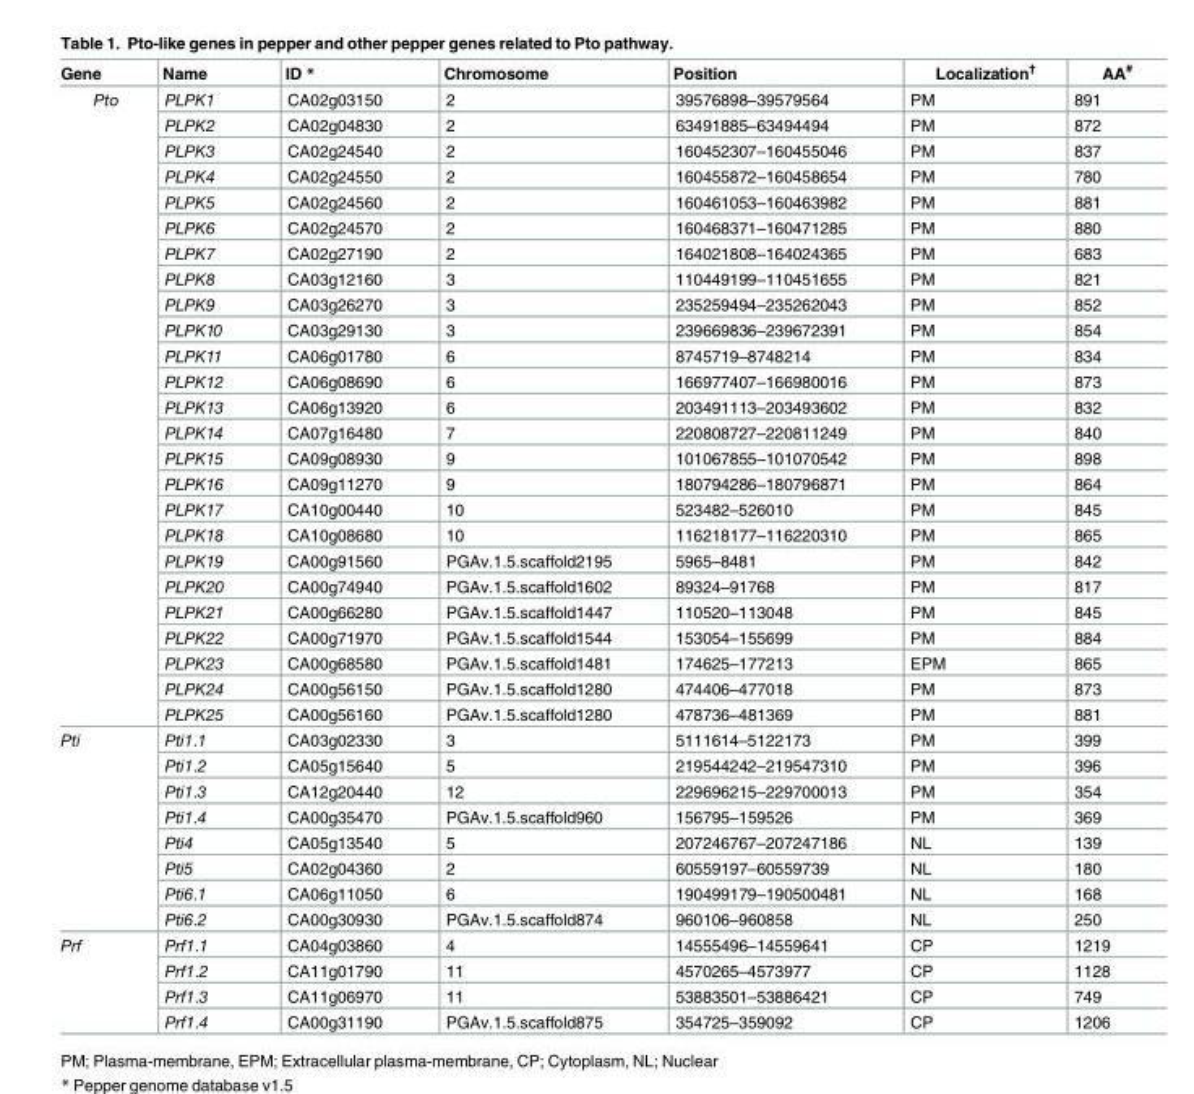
<table><thead><tr><td>Gene</td><td>Name</td><td>ID *</td><td>Chromosome</td><td>Position</td><td>Localization<sup>†</sup></td><td>AA<sup>#</sup></td></tr></thead><tbody><tr><td rowspan="25">Pto</td><td>PLPK1</td><td>CA02g03150</td><td>2</td><td>39576898–39579564</td><td>PM</td><td>891</td></tr><tr><td>PLPK2</td><td>CA02g04830</td><td>2</td><td>63491885–63494494</td><td>PM</td><td>872</td></tr><tr><td>PLPK3</td><td>CA02g24540</td><td>2</td><td>160452307–160455046</td><td>PM</td><td>837</td></tr><tr><td>PLPK4</td><td>CA02g24550</td><td>2</td><td>160455872–160458654</td><td>PM</td><td>780</td></tr><tr><td>PLPK5</td><td>CA02g24560</td><td>2</td><td>160461053–160463982</td><td>PM</td><td>881</td></tr><tr><td>PLPK6</td><td>CA02g24570</td><td>2</td><td>160468371–160471285</td><td>PM</td><td>880</td></tr><tr><td>PLPK7</td><td>CA02g27190</td><td>2</td><td>164021808–164024365</td><td>PM</td><td>683</td></tr><tr><td>PLPK8</td><td>CA03g12160</td><td>3</td><td>110449199–110451655</td><td>PM</td><td>821</td></tr><tr><td>PLPK9</td><td>CA03g26270</td><td>3</td><td>235259494–235262043</td><td>PM</td><td>852</td></tr><tr><td>PLPK10</td><td>CA03g29130</td><td>3</td><td>239669836–239672391</td><td>PM</td><td>854</td></tr><tr><td>PLPK11</td><td>CA06g01780</td><td>6</td><td>8745719–8748214</td><td>PM</td><td>834</td></tr><tr><td>PLPK12</td><td>CA06g08690</td><td>6</td><td>166977407–166980016</td><td>PM</td><td>873</td></tr><tr><td>PLPK13</td><td>CA06g13920</td><td>6</td><td>203491113–203493602</td><td>PM</td><td>832</td></tr><tr><td>PLPK14</td><td>CA07g16480</td><td>7</td><td>220808727–220811249</td><td>PM</td><td>840</td></tr><tr><td>PLPK15</td><td>CA09g08930</td><td>9</td><td>101067855–101070542</td><td>PM</td><td>898</td></tr><tr><td>PLPK16</td><td>CA09g11270</td><td>9</td><td>180794286–180796871</td><td>PM</td><td>864</td></tr><tr><td>PLPK17</td><td>CA10g00440</td><td>10</td><td>523482–526010</td><td>PM</td><td>845</td></tr><tr><td>PLPK18</td><td>CA10g08680</td><td>10</td><td>116218177–116220310</td><td>PM</td><td>865</td></tr><tr><td>PLPK19</td><td>CA00g91560</td><td>PGAv.1.5.scaffold2195</td><td>5965–8481</td><td>PM</td><td>842</td></tr><tr><td>PLPK20</td><td>CA00g74940</td><td>PGAv.1.5.scaffold1602</td><td>89324–91768</td><td>PM</td><td>817</td></tr><tr><td>PLPK21</td><td>CA00g66280</td><td>PGAv.1.5.scaffold1447</td><td>110520–113048</td><td>PM</td><td>845</td></tr><tr><td>PLPK22</td><td>CA00g71970</td><td>PGAv.1.5.scaffold1544</td><td>153054–155699</td><td>PM</td><td>884</td></tr><tr><td>PLPK23</td><td>CA00g68580</td><td>PGAv.1.5.scaffold1481</td><td>174625–177213</td><td>EPM</td><td>865</td></tr><tr><td>PLPK24</td><td>CA00g56150</td><td>PGAv.1.5.scaffold1280</td><td>474406–477018</td><td>PM</td><td>873</td></tr><tr><td>PLPK25</td><td>CA00g56160</td><td>PGAv.1.5.scaffold1280</td><td>478736–481369</td><td>PM</td><td>881</td></tr><tr><td rowspan="8">Pti</td><td>Pti1.1</td><td>CA03g02330</td><td>3</td><td>5111614–5122173</td><td>PM</td><td>399</td></tr><tr><td>Pti1.2</td><td>CA05g15640</td><td>5</td><td>219544242–219547310</td><td>PM</td><td>396</td></tr><tr><td>Pti1.3</td><td>CA12g20440</td><td>12</td><td>229696215–229700013</td><td>PM</td><td>354</td></tr><tr><td>Pti1.4</td><td>CA00g35470</td><td>PGAv.1.5.scaffold960</td><td>156795–159526</td><td>PM</td><td>369</td></tr><tr><td>Pti4</td><td>CA05g13540</td><td>5</td><td>207246767–207247186</td><td>NL</td><td>139</td></tr><tr><td>Pti5</td><td>CA02g04360</td><td>2</td><td>60559197–60559739</td><td>NL</td><td>180</td></tr><tr><td>Pti6.1</td><td>CA06g11050</td><td>6</td><td>190499179–190500481</td><td>NL</td><td>168</td></tr><tr><td>Pti6.2</td><td>CA00g30930</td><td>PGAv.1.5.scaffold874</td><td>960106–960858</td><td>NL</td><td>250</td></tr><tr><td rowspan="4">Prf</td><td>Prf1.1</td><td>CA04g03860</td><td>4</td><td>14555496–14559641</td><td>CP</td><td>1219</td></tr><tr><td>Prf1.2</td><td>CA11g01790</td><td>11</td><td>4570265–4573977</td><td>CP</td><td>1128</td></tr><tr><td>Prf1.3</td><td>CA11g06970</td><td>11</td><td>53883501–53886421</td><td>CP</td><td>749</td></tr><tr><td>Prf1.4</td><td>CA00g31190</td><td>PGAv.1.5.scaffold875</td><td>354725–359092</td><td>CP</td><td>1206</td></tr></tbody></table>